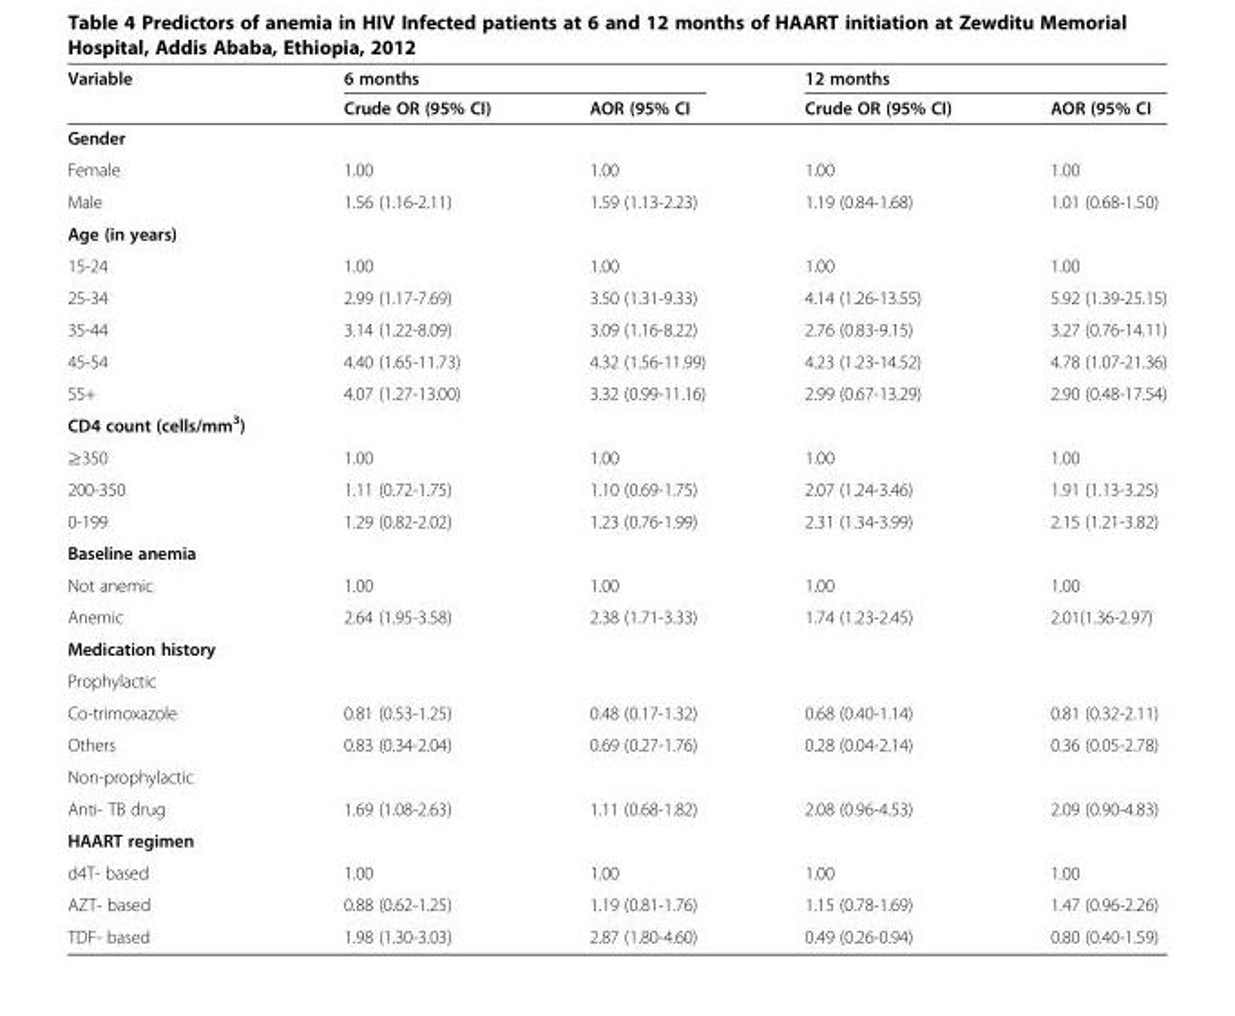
<table><thead><tr><td rowspan="2">Variable</td><td colspan="2">6 months</td><td colspan="2">12 months</td></tr><tr><td>Crude OR (95% CI)</td><td>AOR (95% CI</td><td>Crude OR (95% CI)</td><td>AOR (95% CI</td></tr></thead><tbody><tr><td colspan="5">Gender</td></tr><tr><td>Female</td><td>1.00</td><td>1.00</td><td>1.00</td><td>1.00</td></tr><tr><td>Male</td><td>1.56 (1.16-2.11)</td><td>1.59 (1.13-2.23)</td><td>1.19 (0.84-1.68)</td><td>1.01 (0.68-1.50)</td></tr><tr><td colspan="5">Age (in years)</td></tr><tr><td>15-24</td><td>1.00</td><td>1.00</td><td>1.00</td><td>1.00</td></tr><tr><td>25-34</td><td>2.99 (1.17-7.69)</td><td>3.50 (1.31-9.33)</td><td>4.14 (1.26-13.55)</td><td>5.92 (1.39-25.15)</td></tr><tr><td>35-44</td><td>3.14 (1.22-8.09)</td><td>3.09 (1.16-8.22)</td><td>2.76 (0.83-9.15)</td><td>3.27 (0.76-14.11)</td></tr><tr><td>45-54</td><td>4.40 (1.65-11.73)</td><td>4.32 (1.56-11.99)</td><td>4.23 (1.23-14.52)</td><td>4.78 (1.07-21.36)</td></tr><tr><td>55+</td><td>4.07 (1.27-13.00)</td><td>3.32 (0.99-11.16)</td><td>2.99 (0.67-13.29)</td><td>2.90 (0.48-17.54)</td></tr><tr><td colspan="5">CD4 count (cells/mm<sup>3</sup>)</td></tr><tr><td>≥350</td><td>1.00</td><td>1.00</td><td>1.00</td><td>1.00</td></tr><tr><td>200-350</td><td>1.11 (0.72-1.75)</td><td>1.10 (0.69-1.75)</td><td>2.07 (1.24-3.46)</td><td>1.91 (1.13-3.25)</td></tr><tr><td>0-199</td><td>1.29 (0.82-2.02)</td><td>1.23 (0.76-1.99)</td><td>2.31 (1.34-3.99)</td><td>2.15 (1.21-3.82)</td></tr><tr><td colspan="5">Baseline anemia</td></tr><tr><td>Not anemic</td><td>1.00</td><td>1.00</td><td>1.00</td><td>1.00</td></tr><tr><td>Anemic</td><td>2.64 (1.95-3.58)</td><td>2.38 (1.71-3.33)</td><td>1.74 (1.23-2.45)</td><td>2.01(1.36-2.97)</td></tr><tr><td colspan="5">Medication history</td></tr><tr><td colspan="5">Prophylactic</td></tr><tr><td>Co-trimoxazole</td><td>0.81 (0.53-1.25)</td><td>0.48 (0.17-1.32)</td><td>0.68 (0.40-1.14)</td><td>0.81 (0.32-2.11)</td></tr><tr><td>Others</td><td>0.83 (0.34-2.04)</td><td>0.69 (0.27-1.76)</td><td>0.28 (0.04-2.14)</td><td>0.36 (0.05-2.78)</td></tr><tr><td colspan="5">Non-prophylactic</td></tr><tr><td>Anti- TB drug</td><td>1.69 (1.08-2.63)</td><td>1.11 (0.68-1.82)</td><td>2.08 (0.96-4.53)</td><td>2.09 (0.90-4.83)</td></tr><tr><td colspan="5">HAART regimen</td></tr><tr><td>d4T- based</td><td>1.00</td><td>1.00</td><td>1.00</td><td>1.00</td></tr><tr><td>AZT- based</td><td>0.88 (0.62-1.25)</td><td>1.19 (0.81-1.76)</td><td>1.15 (0.78-1.69)</td><td>1.47 (0.96-2.26)</td></tr><tr><td>TDF- based</td><td>1.98 (1.30-3.03)</td><td>2.87 (1.80-4.60)</td><td>0.49 (0.26-0.94)</td><td>0.80 (0.40-1.59)</td></tr></tbody></table>